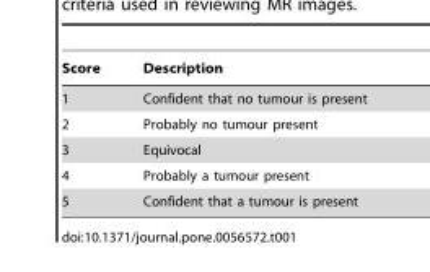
<table><thead><tr><td>Score</td><td>Description</td></tr></thead><tbody><tr><td>1</td><td>Confident that no tumour is present</td></tr><tr><td>2</td><td>Probably no tumour present</td></tr><tr><td>3</td><td>Equivocal</td></tr><tr><td>4</td><td>Probably a tumour present</td></tr><tr><td>5</td><td>Confident that a tumour is present</td></tr></tbody></table>